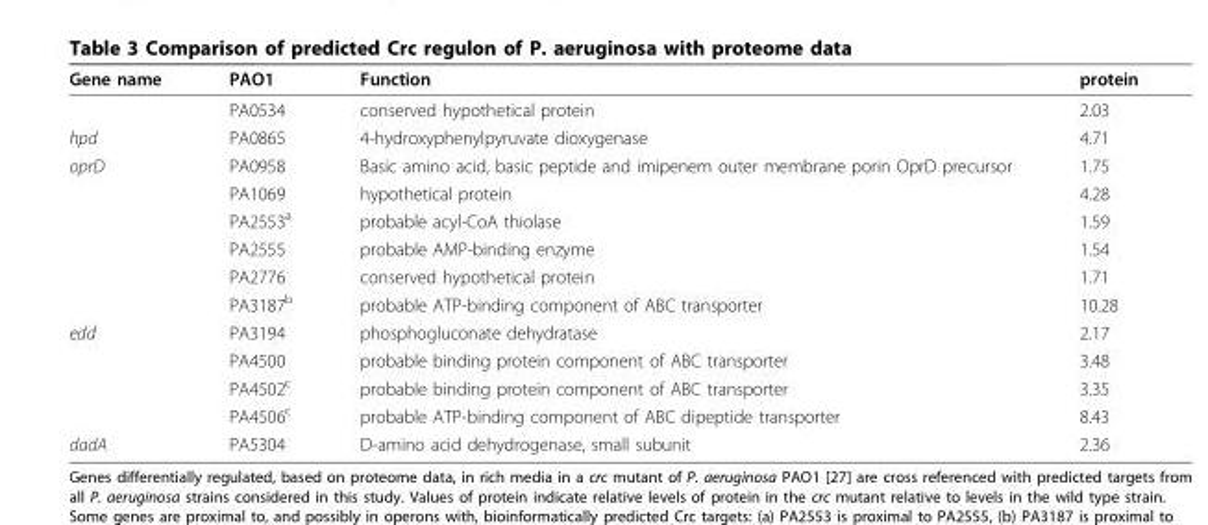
<table><thead><tr><td>Gene name</td><td>PAO1</td><td>Function</td><td>protein</td></tr></thead><tbody><tr><td></td><td>PA0534</td><td>conserved hypothetical protein</td><td>2.03</td></tr><tr><td>hpd</td><td>PA0865</td><td>4-hydroxyphenylpyruvate dioxygenase</td><td>4.71</td></tr><tr><td rowspan="6">oprD</td><td>PA0958</td><td>Basic amino acid, basic peptide and imipenem outer membrane porin OprD precursor</td><td>1.75</td></tr><tr><td>PA1069</td><td>hypothetical protein</td><td>4.28</td></tr><tr><td>PA2553<sup>a</sup></td><td>probable acyl-CoA thiolase</td><td>1.59</td></tr><tr><td>PA2555</td><td>probable AMP-binding enzyme</td><td>1.54</td></tr><tr><td>PA2776</td><td>conserved hypothetical protein</td><td>1.71</td></tr><tr><td>PA3187<sup>b</sup></td><td>probable ATP-binding component of ABC transporter</td><td>10.28</td></tr><tr><td rowspan="4">edd</td><td>PA3194</td><td>phosphogluconate dehydratase</td><td>2.17</td></tr><tr><td>PA4500</td><td>probable binding protein component of ABC transporter</td><td>3.48</td></tr><tr><td>PA4502<sup>c</sup></td><td>probable binding protein component of ABC transporter</td><td>3.35</td></tr><tr><td>PA4506<sup>c</sup></td><td>probable ATP-binding component of ABC dipeptide transporter</td><td>8.43</td></tr><tr><td>dadA</td><td>PA5304</td><td>D-amino acid dehydrogenase, small subunit</td><td>2.36</td></tr></tbody></table>